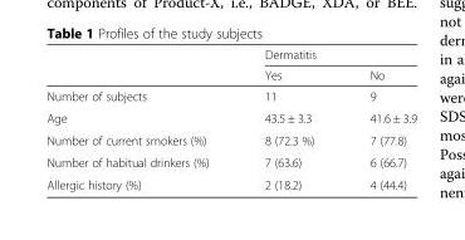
<table><thead><tr><td rowspan="2"></td><td colspan="2">Dermatitis</td></tr><tr><td>Yes</td><td>No</td></tr></thead><tbody><tr><td>Number of subjects</td><td>11</td><td>9</td></tr><tr><td>Age</td><td>43.5 ± 3.3</td><td>41.6 ± 3.9</td></tr><tr><td>Number of current smokers (%)</td><td>8 (72.3 %)</td><td>7 (77.8)</td></tr><tr><td>Number of habitual drinkers (%)</td><td>7 (63.6)</td><td>6 (66.7)</td></tr><tr><td>Allergic history (%)</td><td>2 (18.2)</td><td>4 (44.4)</td></tr></tbody></table>